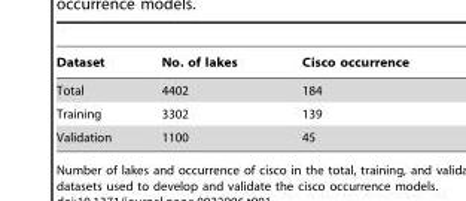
<table><thead><tr><td>Dataset</td><td>No. of lakes</td><td>Cisco occurrence</td></tr></thead><tbody><tr><td>Total</td><td>4402</td><td>184</td></tr><tr><td>Training</td><td>3302</td><td>139</td></tr><tr><td>Validation</td><td>1100</td><td>45</td></tr></tbody></table>